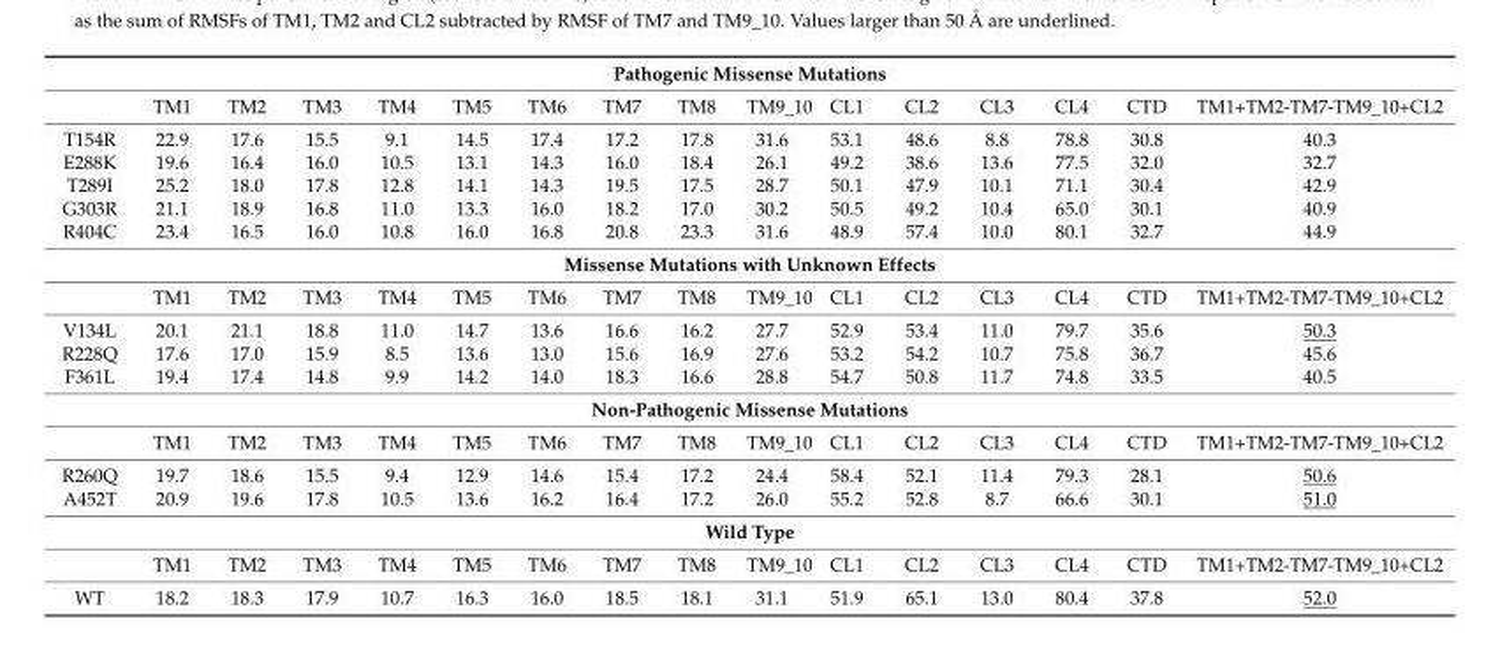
<table><tbody><tr><td colspan="16">Pathogenic Missense Mutations</td></tr><tr><td></td><td>TM1</td><td>TM2</td><td>TM3</td><td>TM4</td><td>TM5</td><td>TM6</td><td>TM7</td><td>TM8</td><td>TM9_10</td><td>CL1</td><td>CL2</td><td>CL3</td><td>CL4</td><td>CTD</td><td>TM1+TM2-TM7-TM9_10+CL2</td></tr><tr><td>T154R</td><td>22.9</td><td>17.6</td><td>15.5</td><td>9.1</td><td>14.5</td><td>17.4</td><td>17.2</td><td>17.8</td><td>31.6</td><td>53.1</td><td>48.6</td><td>8.8</td><td>78.8</td><td>30.8</td><td>40.3</td></tr><tr><td>E288K</td><td>19.6</td><td>16.4</td><td>16.0</td><td>10.5</td><td>13.1</td><td>14.3</td><td>16.0</td><td>18.4</td><td>26.1</td><td>49.2</td><td>38.6</td><td>13.6</td><td>77.5</td><td>32.0</td><td>32.7</td></tr><tr><td>T289I</td><td>25.2</td><td>18.0</td><td>17.8</td><td>12.8</td><td>14.1</td><td>14.3</td><td>19.5</td><td>17.5</td><td>28.7</td><td>50.1</td><td>47.9</td><td>10.1</td><td>71.1</td><td>30.4</td><td>42.9</td></tr><tr><td>G303R</td><td>21.1</td><td>18.9</td><td>16.8</td><td>11.0</td><td>13.3</td><td>16.0</td><td>18.2</td><td>17.0</td><td>30.2</td><td>50.5</td><td>49.2</td><td>10.4</td><td>65.0</td><td>30.1</td><td>40.9</td></tr><tr><td>R404C</td><td>23.4</td><td>16.5</td><td>16.0</td><td>10.8</td><td>16.0</td><td>16.8</td><td>20.8</td><td>23.3</td><td>31.6</td><td>48.9</td><td>57.4</td><td>10.0</td><td>80.1</td><td>32.7</td><td>44.9</td></tr><tr><td colspan="16">Missense Mutations with Unknown Effects</td></tr><tr><td></td><td>TM1</td><td>TM2</td><td>TM3</td><td>TM4</td><td>TM5</td><td>TM6</td><td>TM7</td><td>TM8</td><td>TM9_10</td><td>CL1</td><td>CL2</td><td>CL3</td><td>CL4</td><td>CTD</td><td>TM1+TM2-TM7-TM9_10+CL2</td></tr><tr><td>V134L</td><td>20.1</td><td>21.1</td><td>18.8</td><td>11.0</td><td>14.7</td><td>13.6</td><td>16.6</td><td>16.2</td><td>27.7</td><td>52.9</td><td>53.4</td><td>11.0</td><td>79.7</td><td>35.6</td><td>50.3</td></tr><tr><td>R228Q</td><td>17.6</td><td>17.0</td><td>15.9</td><td>8.5</td><td>13.6</td><td>13.0</td><td>15.6</td><td>16.9</td><td>27.6</td><td>53.2</td><td>54.2</td><td>10.7</td><td>75.8</td><td>36.7</td><td>45.6</td></tr><tr><td>F361L</td><td>19.4</td><td>17.4</td><td>14.8</td><td>9.9</td><td>14.2</td><td>14.0</td><td>18.3</td><td>16.6</td><td>28.8</td><td>54.7</td><td>50.8</td><td>11.7</td><td>74.8</td><td>33.5</td><td>40.5</td></tr><tr><td colspan="16">Non-Pathogenic Missense Mutations</td></tr><tr><td></td><td>TM1</td><td>TM2</td><td>TM3</td><td>TM4</td><td>TM5</td><td>TM6</td><td>TM7</td><td>TM8</td><td>TM9_10</td><td>CL1</td><td>CL2</td><td>CL3</td><td>CL4</td><td>CTD</td><td>TM1+TM2-TM7-TM9_10+CL2</td></tr><tr><td>R260Q</td><td>19.7</td><td>18.6</td><td>15.5</td><td>9.4</td><td>12.9</td><td>14.6</td><td>15.4</td><td>17.2</td><td>24.4</td><td>58.4</td><td>52.1</td><td>11.4</td><td>79.3</td><td>28.1</td><td>50.6</td></tr><tr><td>A452T</td><td>20.9</td><td>19.6</td><td>17.8</td><td>10.5</td><td>13.6</td><td>16.2</td><td>16.4</td><td>17.2</td><td>26.0</td><td>55.2</td><td>52.8</td><td>8.7</td><td>66.6</td><td>30.1</td><td>51.0</td></tr><tr><td colspan="16">Wild Type</td></tr><tr><td></td><td>TM1</td><td>TM2</td><td>TM3</td><td>TM4</td><td>TM5</td><td>TM6</td><td>TM7</td><td>TM8</td><td>TM9_10</td><td>CL1</td><td>CL2</td><td>CL3</td><td>CL4</td><td>CTD</td><td>TM1+TM2-TM7-TM9_10+CL2</td></tr><tr><td>WT</td><td>18.2</td><td>18.3</td><td>17.9</td><td>10.7</td><td>16.3</td><td>16.0</td><td>18.5</td><td>18.1</td><td>31.1</td><td>51.9</td><td>65.1</td><td>13.0</td><td>80.4</td><td>37.8</td><td>52.0</td></tr></tbody></table>